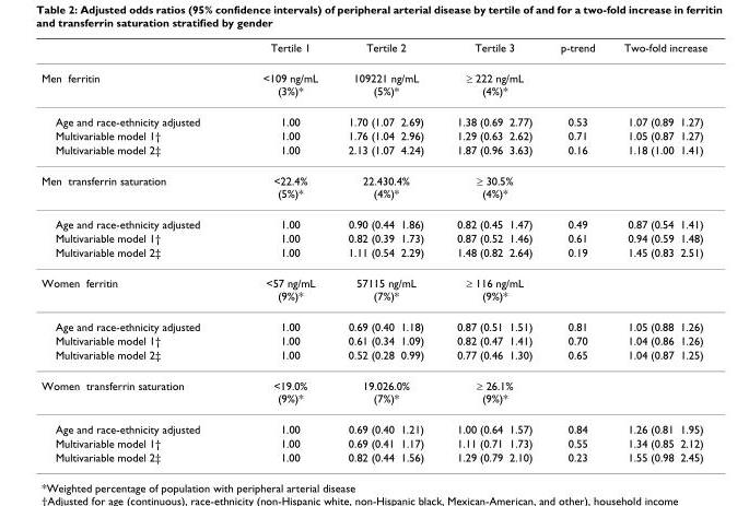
<table><thead><tr><td></td><td>Tertile 1</td><td>Tertile 2</td><td>Tertile 3</td><td>p-trend</td><td>Two-fold increase</td></tr></thead><tbody><tr><td>Men ferritin</td><td>&lt;109 ng/mL (3%)*</td><td>109221 ng/mL (5%)*</td><td>≥ 222 ng/mL (4%)*</td><td></td><td></td></tr><tr><td>Age and race-ethnicity adjusted</td><td>1.00</td><td>1.70 (1.07 2.69)</td><td>1.38 (0.69 2.77)</td><td>0.53</td><td>1.07 (0.89 1.27)</td></tr><tr><td>Multivariable model 1†</td><td>1.00</td><td>1.76 (1.04 2.96)</td><td>1.29 (0.63 2.62)</td><td>0.71</td><td>1.05 (0.87 1.27)</td></tr><tr><td>Multivariable model 2‡</td><td>1.00</td><td>2.13 (1.07 4.24)</td><td>1.87 (0.96 3.63)</td><td>0.16</td><td>1.18 (1.00 1.41)</td></tr><tr><td>Men transferrin saturation</td><td>&lt;22.4% (5%)*</td><td>22.430.4% (4%)*</td><td>≥ 30.5% (4%)*</td><td></td><td></td></tr><tr><td>Age and race-ethnicity adjusted</td><td>1.00</td><td>0.90 (0.44 1.86)</td><td>0.82 (0.45 1.47)</td><td>0.49</td><td>0.87 (0.54 1.41)</td></tr><tr><td>Multivariable model 1†</td><td>1.00</td><td>0.82 (0.39 1.73)</td><td>0.87 (0.52 1.46)</td><td>0.61</td><td>0.94 (0.59 1.48)</td></tr><tr><td>Multivariable model 2‡</td><td>1.00</td><td>1.11 (0.54 2.29)</td><td>1.48 (0.82 2.64)</td><td>0.19</td><td>1.45 (0.83 2.51)</td></tr><tr><td>Women ferritin</td><td>&lt;57 ng/mL (9%)*</td><td>57115 ng/mL (7%)*</td><td>≥ 116 ng/mL (9%)*</td><td></td><td></td></tr><tr><td>Age and race-ethnicity adjusted</td><td>1.00</td><td>0.69 (0.40 1.18)</td><td>0.87 (0.51 1.51)</td><td>0.81</td><td>1.05 (0.88 1.26)</td></tr><tr><td>Multivariable model 1†</td><td>1.00</td><td>0.61 (0.34 1.09)</td><td>0.82 (0.47 1.41)</td><td>0.70</td><td>1.04 (0.86 1.26)</td></tr><tr><td>Multivariable model 2‡</td><td>1.00</td><td>0.52 (0.28 0.99)</td><td>0.77 (0.46 1.30)</td><td>0.65</td><td>1.04 (0.87 1.25)</td></tr><tr><td>Women transferrin saturation</td><td>&lt;19.0% (9%)*</td><td>19.026.0% (7%)*</td><td>≥ 26.1% (9%)*</td><td></td><td></td></tr><tr><td>Age and race-ethnicity adjusted</td><td>1.00</td><td>0.69 (0.40 1.21)</td><td>1.00 (0.64 1.57)</td><td>0.84</td><td>1.26 (0.81 1.95)</td></tr><tr><td>Multivariable model 1†</td><td>1.00</td><td>0.69 (0.41 1.17)</td><td>1.11 (0.71 1.73)</td><td>0.55</td><td>1.34 (0.85 2.12)</td></tr><tr><td>Multivariable model 2‡</td><td>1.00</td><td>0.82 (0.44 1.56)</td><td>1.29 (0.79 2.10)</td><td>0.23</td><td>1.55 (0.98 2.45)</td></tr></tbody></table>